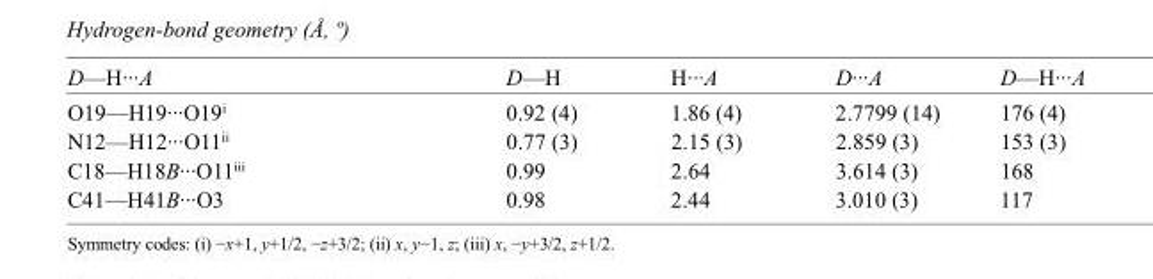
<table><tbody><tr><td>D—H···A</td><td>D—H</td><td>H···A</td><td>D···A</td><td>D—H···A</td></tr><tr><td>O19—H19···O19<sup>i</sup></td><td>0.92 (4)</td><td>1.86 (4)</td><td>2.7799 (14)</td><td>176 (4)</td></tr><tr><td>N12—H12···O11<sup>ii</sup></td><td>0.77 (3)</td><td>2.15 (3)</td><td>2.859 (3)</td><td>153 (3)</td></tr><tr><td>C18—H18B···O11<sup>iii</sup></td><td>0.99</td><td>2.64</td><td>3.614 (3)</td><td>168</td></tr><tr><td>C41—H41B···O3</td><td>0.98</td><td>2.44</td><td>3.010 (3)</td><td>117</td></tr></tbody></table>